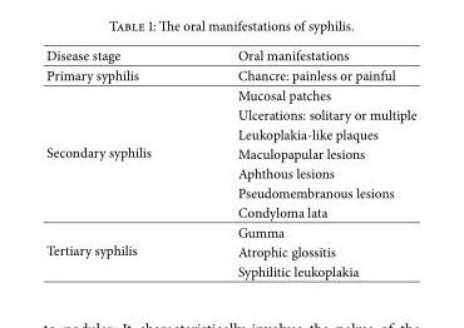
<table><tbody><tr><td>Disease stage</td><td>Oral manifestations</td></tr><tr><td>Primary syphilis</td><td>Chancre: painless or painful</td></tr><tr><td rowspan="7">Secondary syphilis</td><td>Mucosal patches</td></tr><tr><td>Ulcerations: solitary or multiple</td></tr><tr><td>Leukoplakia-like plaques</td></tr><tr><td>Maculopapular lesions</td></tr><tr><td>Aphthous lesions</td></tr><tr><td>Pseudomembranous lesions</td></tr><tr><td>Condyloma lata</td></tr><tr><td rowspan="3">Tertiary syphilis</td><td>Gumma</td></tr><tr><td>Atrophic glossitis</td></tr><tr><td>Syphilitic leukoplakia</td></tr></tbody></table>